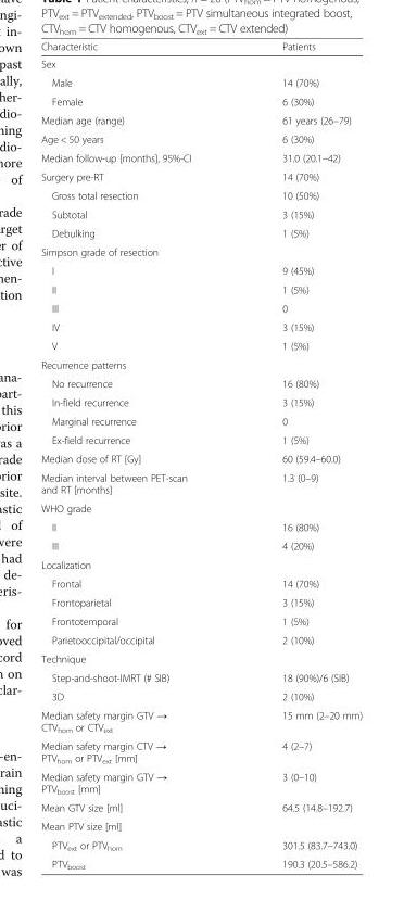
<table><thead><tr><td>Characteristic</td><td>Patients</td></tr></thead><tbody><tr><td colspan="2">Sex</td></tr><tr><td>Male</td><td>14 (70%)</td></tr><tr><td>Female</td><td>6 (30%)</td></tr><tr><td>Median age (range)</td><td>61 years (26–79)</td></tr><tr><td>Age &lt; 50 years</td><td>6 (30%)</td></tr><tr><td>Median follow-up [months], 95%-CI</td><td>31.0 (20.1–42)</td></tr><tr><td>Surgery pre-RT</td><td>14 (70%)</td></tr><tr><td>Gross total resection</td><td>10 (50%)</td></tr><tr><td>Subtotal</td><td>3 (15%)</td></tr><tr><td>Debulking</td><td>1 (5%)</td></tr><tr><td colspan="2">Simpson grade of resection</td></tr><tr><td>I</td><td>9 (45%)</td></tr><tr><td>II</td><td>1 (5%)</td></tr><tr><td>III</td><td>0</td></tr><tr><td>IV</td><td>3 (15%)</td></tr><tr><td>V</td><td>1 (5%)</td></tr><tr><td colspan="2">Recurrence patterns</td></tr><tr><td>No recurrence</td><td>16 (80%)</td></tr><tr><td>In-field recurrence</td><td>3 (15%)</td></tr><tr><td>Marginal recurrence</td><td>0</td></tr><tr><td>Ex-field recurrence</td><td>1 (5%)</td></tr><tr><td>Median dose of RT [Gy]</td><td>60 (59.4–60.0)</td></tr><tr><td>Median interval between PET-scan and RT [months]</td><td>1.3 (0–9)</td></tr><tr><td colspan="2">WHO grade</td></tr><tr><td>II</td><td>16 (80%)</td></tr><tr><td>III</td><td>4 (20%)</td></tr><tr><td colspan="2">Localization</td></tr><tr><td>Frontal</td><td>14 (70%)</td></tr><tr><td>Frontoparietal</td><td>3 (15%)</td></tr><tr><td>Frontotemporal</td><td>1 (5%)</td></tr><tr><td>Parietooccipital/occipital</td><td>2 (10%)</td></tr><tr><td colspan="2">Technique</td></tr><tr><td>Step-and-shoot-IMRT (# SIB)</td><td>18 (90%)/6 (SIB)</td></tr><tr><td>3D</td><td>2 (10%)</td></tr><tr><td>Median safety margin GTV → CTV<sub>hom</sub> or CTV<sub>ext</sub></td><td>15 mm (2–20 mm)</td></tr><tr><td>Median safety margin CTV → PTV<sub>hom</sub> or PTV<sub>ext</sub> [mm]</td><td>4 (2–7)</td></tr><tr><td>Median safety margin GTV → PTV<sub>boost</sub> [mm]</td><td>3 (0–10)</td></tr><tr><td>Mean GTV size [ml]</td><td>64.5 (14.8–192.7)</td></tr><tr><td colspan="2">Mean PTV size [ml]</td></tr><tr><td>PTV<sub>ext</sub> or PTV<sub>hom</sub></td><td>301.5 (83.7–743.0)</td></tr><tr><td>PTV<sub>boost</sub></td><td>190.3 (20.5–586.2)</td></tr></tbody></table>